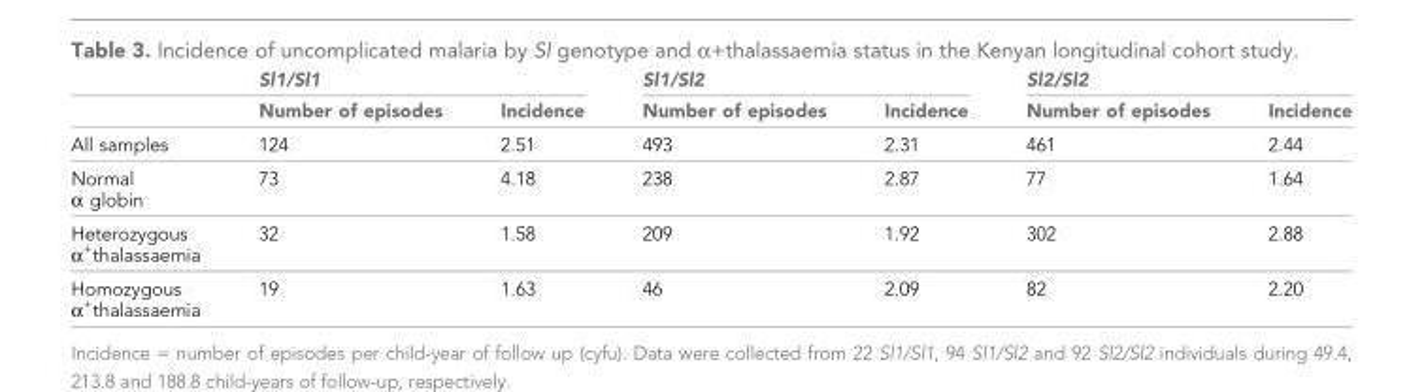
<table><thead><tr><td rowspan="2"></td><td colspan="2">Sl1/Sl1</td><td colspan="2">Sl1/Sl2</td><td colspan="2">Sl2/Sl2</td></tr><tr><td>Number of episodes</td><td>Incidence</td><td>Number of episodes</td><td>Incidence</td><td>Number of episodes</td><td>Incidence</td></tr></thead><tbody><tr><td>All samples</td><td>124</td><td>2.51</td><td>493</td><td>2.31</td><td>461</td><td>2.44</td></tr><tr><td>Normal α globin</td><td>73</td><td>4.18</td><td>238</td><td>2.87</td><td>77</td><td>1.64</td></tr><tr><td>Heterozygous α<sup>+</sup>thalassaemia</td><td>32</td><td>1.58</td><td>209</td><td>1.92</td><td>302</td><td>2.88</td></tr><tr><td>Homozygous α<sup>+</sup>thalassaemia</td><td>19</td><td>1.63</td><td>46</td><td>2.09</td><td>82</td><td>2.20</td></tr></tbody></table>